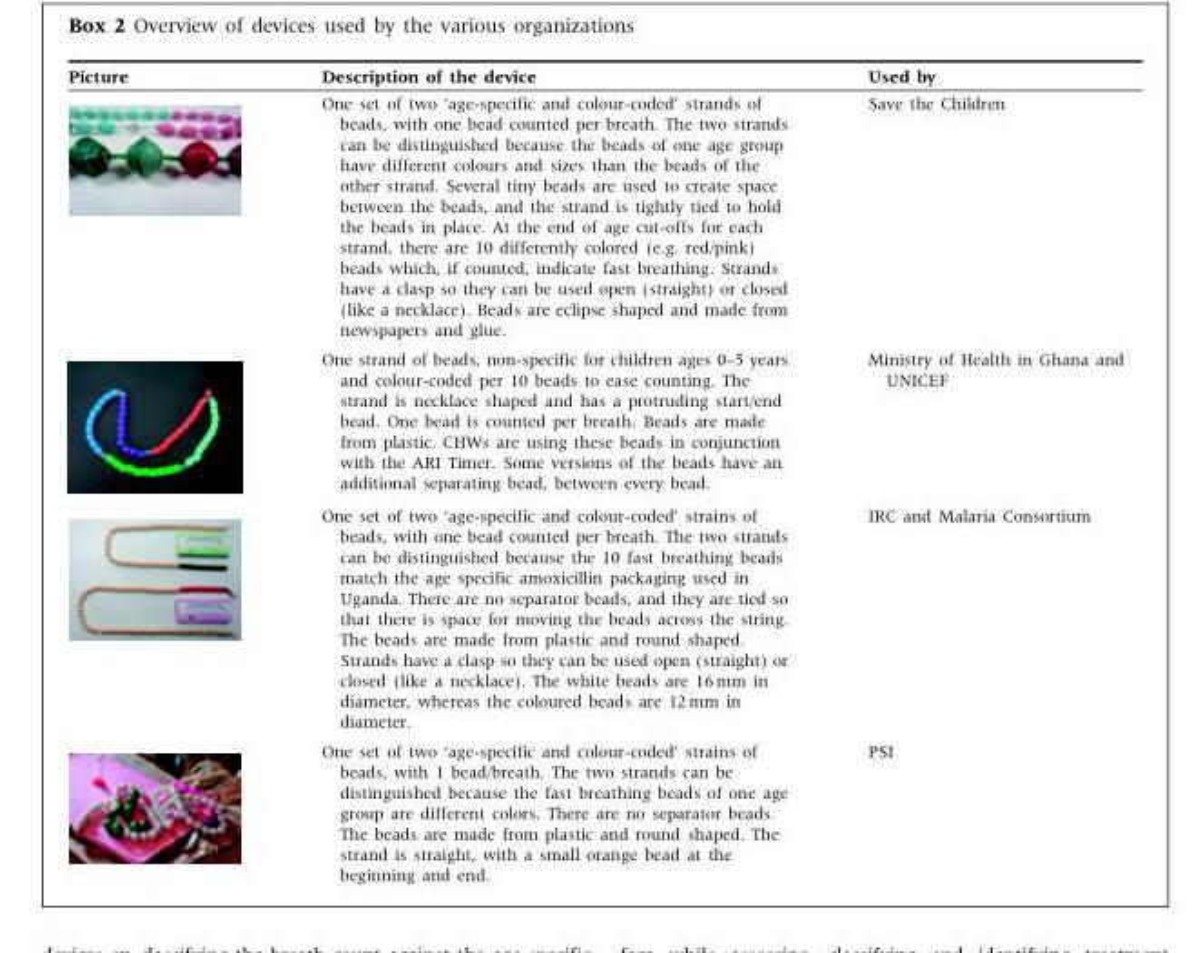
<table><thead><tr><td>Picture</td><td>Description of the device</td><td>Used by</td></tr></thead><tbody><tr><td></td><td>One set of two ‘age-specific and colour-coded’ strands of beads, with one bead counted per breath. The two strands can be distinguished because the beads of one age group have different colours and sizes than the beads of the other strand. Several tiny beads are used to create space between the beads, and the strand is tightly tied to hold the beads in place. At the end of age cut-offs for each strand, there are 10 differently colored (e.g. red/pink) beads which, if counted, indicate fast breathing. Strands have a clasp so they can be used open (straight) or closed (like a necklace). Beads are eclipse shaped and made from newspapers and glue.</td><td>Save the Children</td></tr><tr><td></td><td>One strand of beads, non-specific for children ages 0–5 years and colour-coded per 10 beads to ease counting. The strand is necklace shaped and has a protruding start/end bead. One bead is counted per breath. Beads are made from plastic. CHWs are using these beads in conjunction with the ARI Timer. Some versions of the beads have an additional separating bead, between every bead.</td><td>Ministry of Health in Ghana and UNICEF</td></tr><tr><td></td><td>One set of two ‘age-specific and colour-coded’ strains of beads, with one bead counted per breath. The two strands can be distinguished because the 10 fast breathing beads match the age specific amoxicillin packaging used in Uganda. There are no separator beads, and they are tied so that there is space for moving the beads across the string. The beads are made from plastic and round shaped. Strands have a clasp so they can be used open (straight) or closed (like a necklace). The white beads are 16 mm in diameter, whereas the coloured beads are 12 mm in diameter.</td><td>IRC and Malaria Consortium</td></tr><tr><td></td><td>One set of two ‘age-specific and colour-coded’ strains of beads, with 1 bead/breath. The two strands can be distinguished because the fast breathing beads of one age group are different colors. There are no separator beads. The beads are made from plastic and round shaped. The strand is straight, with a small orange bead at the beginning and end.</td><td>PSI</td></tr></tbody></table>